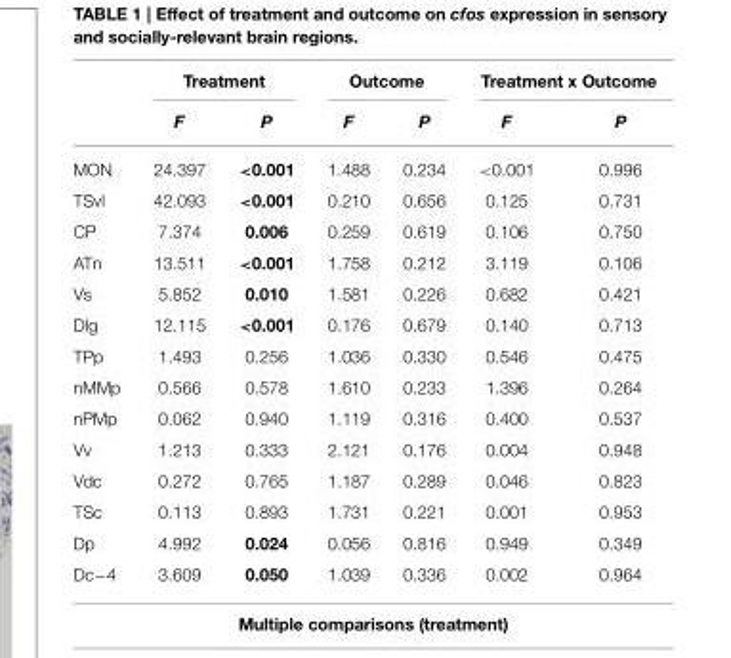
<table><thead><tr><td rowspan="2"></td><td colspan="2">Treatment</td><td colspan="2">Outcome</td><td colspan="2">Treatment x Outcome</td></tr><tr><td>F</td><td>P</td><td>F</td><td>P</td><td>F</td><td>P</td></tr></thead><tbody><tr><td>MON</td><td>24.397</td><td>&lt;0.001</td><td>1.488</td><td>0.234</td><td>&lt;0.001</td><td>0.996</td></tr><tr><td>TSvl</td><td>42.093</td><td>&lt;0.001</td><td>0.210</td><td>0.656</td><td>0.125</td><td>0.731</td></tr><tr><td>CP</td><td>7.374</td><td>0.006</td><td>0.259</td><td>0.619</td><td>0.106</td><td>0.750</td></tr><tr><td>ATn</td><td>13.511</td><td>&lt;0.001</td><td>1.758</td><td>0.212</td><td>3.119</td><td>0.106</td></tr><tr><td>Vs</td><td>5.852</td><td>0.010</td><td>1.581</td><td>0.226</td><td>0.682</td><td>0.421</td></tr><tr><td>Dlg</td><td>12.115</td><td>&lt;0.001</td><td>0.176</td><td>0.679</td><td>0.140</td><td>0.713</td></tr><tr><td>TPp</td><td>1.493</td><td>0.256</td><td>1.036</td><td>0.330</td><td>0.546</td><td>0.475</td></tr><tr><td>nMMp</td><td>0.566</td><td>0.578</td><td>1.610</td><td>0.233</td><td>1.396</td><td>0.264</td></tr><tr><td>nPMp</td><td>0.062</td><td>0.940</td><td>1.119</td><td>0.316</td><td>0.400</td><td>0.537</td></tr><tr><td>Vv</td><td>1.213</td><td>0.333</td><td>2.121</td><td>0.176</td><td>0.004</td><td>0.948</td></tr><tr><td>Vdc</td><td>0.272</td><td>0.765</td><td>1.187</td><td>0.289</td><td>0.046</td><td>0.823</td></tr><tr><td>TSc</td><td>0.113</td><td>0.893</td><td>1.731</td><td>0.221</td><td>0.001</td><td>0.953</td></tr><tr><td>Dp</td><td>4.992</td><td>0.024</td><td>0.056</td><td>0.816</td><td>0.949</td><td>0.349</td></tr><tr><td>Dc−4</td><td>3.609</td><td>0.050</td><td>1.039</td><td>0.336</td><td>0.002</td><td>0.964</td></tr></tbody></table>